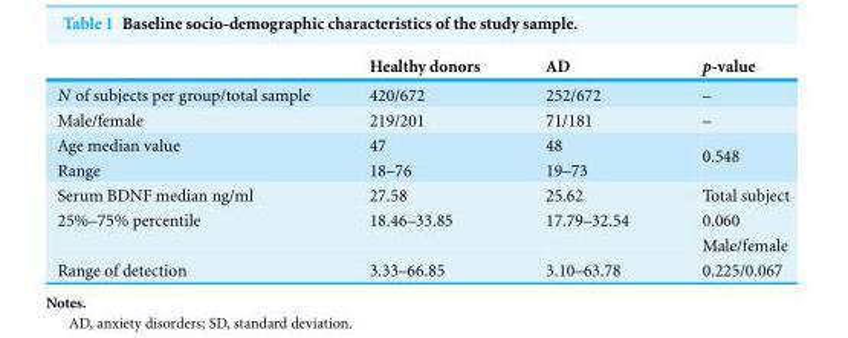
<table><thead><tr><td></td><td>Healthy donors</td><td>AD</td><td>p-value</td></tr></thead><tbody><tr><td>N of subjects per group/total sample</td><td>420/672</td><td>252/672</td><td>–</td></tr><tr><td>Male/female</td><td>219/201</td><td>71/181</td><td>–</td></tr><tr><td>Age median value</td><td>47</td><td>48</td><td rowspan="2">0.548</td></tr><tr><td>Range</td><td>18–76</td><td>19–73</td></tr><tr><td>Serum BDNF median ng/ml</td><td>27.58</td><td>25.62</td><td>Total subject</td></tr><tr><td rowspan="2">25%–75% percentile</td><td>18.46–33.85</td><td>17.79–32.54</td><td>0.060</td></tr><tr><td></td><td></td><td>Male/female</td></tr><tr><td>Range of detection</td><td>3.33–66.85</td><td>3.10–63.78</td><td>0.225/0.067</td></tr></tbody></table>